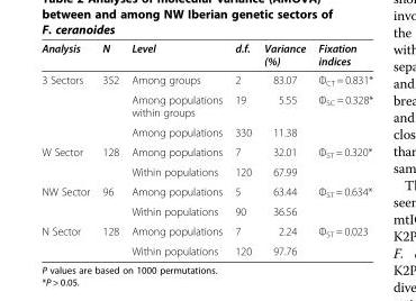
<table><thead><tr><td>Analysis</td><td>N</td><td>Level</td><td>d.f.</td><td>Variance (%)</td><td>Fixation indices</td></tr></thead><tbody><tr><td rowspan="3">3 Sectors</td><td rowspan="3">352</td><td>Among groups</td><td>2</td><td>83.07</td><td>Φ<sub>CT</sub> = 0.831*</td></tr><tr><td>Among populations within groups</td><td>19</td><td>5.55</td><td>Φ<sub>SC</sub> = 0.328*</td></tr><tr><td>Among populations</td><td>330</td><td>11.38</td><td></td></tr><tr><td rowspan="2">W Sector</td><td rowspan="2">128</td><td>Among populations</td><td>7</td><td>32.01</td><td>Φ<sub>ST</sub> = 0.320*</td></tr><tr><td>Within populations</td><td>120</td><td>67.99</td><td></td></tr><tr><td rowspan="2">NW Sector</td><td rowspan="2">96</td><td>Among populations</td><td>5</td><td>63.44</td><td>Φ<sub>ST</sub> = 0.634*</td></tr><tr><td>Within populations</td><td>90</td><td>36.56</td><td></td></tr><tr><td rowspan="2">N Sector</td><td>128</td><td>Among populations</td><td>7</td><td>2.24</td><td>Φ<sub>ST</sub> = 0.023</td></tr><tr><td></td><td>Within populations</td><td>120</td><td>97.76</td><td></td></tr></tbody></table>